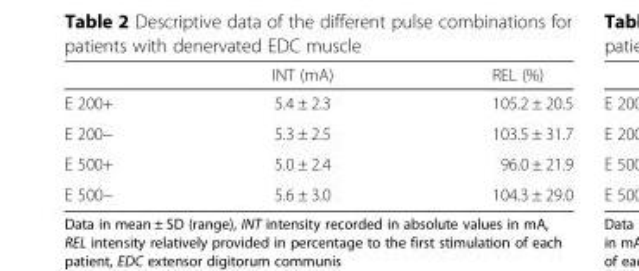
<table><thead><tr><td></td><td>INT (mA)</td><td>REL (%)</td></tr></thead><tbody><tr><td>E 200+</td><td>5.4 ± 2.3</td><td>105.2 ± 20.5</td></tr><tr><td>E 200−</td><td>5.3 ± 2.5</td><td>103.5 ± 31.7</td></tr><tr><td>E 500+</td><td>5.0 ± 2.4</td><td>96.0 ± 21.9</td></tr><tr><td>E 500−</td><td>5.6 ± 3.0</td><td>104.3 ± 29.0</td></tr></tbody></table>